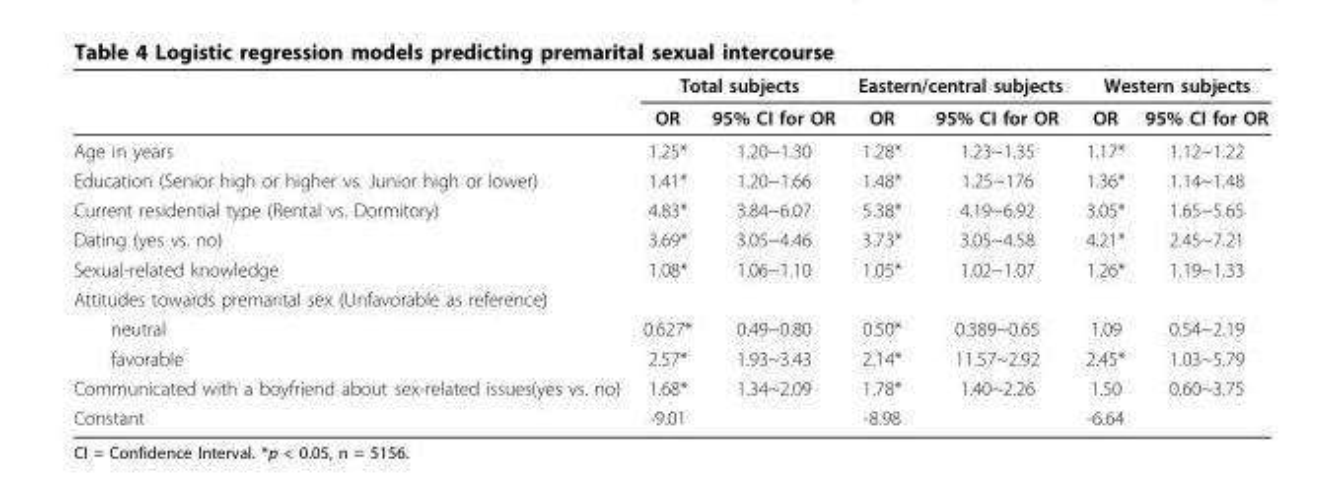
<table><thead><tr><td rowspan="2"></td><td colspan="2">Total subjects</td><td colspan="2">Eastern/central subjects</td><td colspan="2">Western subjects</td></tr><tr><td>OR</td><td>95% CI for OR</td><td>OR</td><td>95% CI for OR</td><td>OR</td><td>95% CI for OR</td></tr></thead><tbody><tr><td>Age in years</td><td>1.25*</td><td>1.20~1.30</td><td>1.28*</td><td>1.23~1.35</td><td>1.17*</td><td>1.12~1.22</td></tr><tr><td>Education (Senior high or higher vs. Junior high or lower)</td><td>1.41*</td><td>1.20~1.66</td><td>1.48*</td><td>1.25~176</td><td>1.36*</td><td>1.14~1.48</td></tr><tr><td>Current residential type (Rental vs. Dormitory)</td><td>4.83*</td><td>3.84~6.07</td><td>5.38*</td><td>4.19~6.92</td><td>3.05*</td><td>1.65~5.65</td></tr><tr><td>Dating (yes vs. no)</td><td>3.69*</td><td>3.05~4.46</td><td>3.73*</td><td>3.05~4.58</td><td>4.21*</td><td>2.45~7.21</td></tr><tr><td>Sexual-related knowledge</td><td>1.08*</td><td>1.06~1.10</td><td>1.05*</td><td>1.02~1.07</td><td>1.26*</td><td>1.19~1.33</td></tr><tr><td colspan="7">Attitudes towards premarital sex (Unfavorable as reference)</td></tr><tr><td>neutral</td><td>0.627*</td><td>0.49~0.80</td><td>0.50*</td><td>0.389~0.65</td><td>1.09</td><td>0.54~2.19</td></tr><tr><td>favorable</td><td>2.57*</td><td>1.93~3.43</td><td>2.14*</td><td>11.57~2.92</td><td>2.45*</td><td>1.03~5.79</td></tr><tr><td>Communicated with a boyfriend about sex-related issues(yes vs. no)</td><td>1.68*</td><td>1.34~2.09</td><td>1.78*</td><td>1.40~2.26</td><td>1.50</td><td>0.60~3.75</td></tr><tr><td>Constant</td><td>-9.01</td><td></td><td>-8.98</td><td></td><td>-6.64</td><td></td></tr></tbody></table>